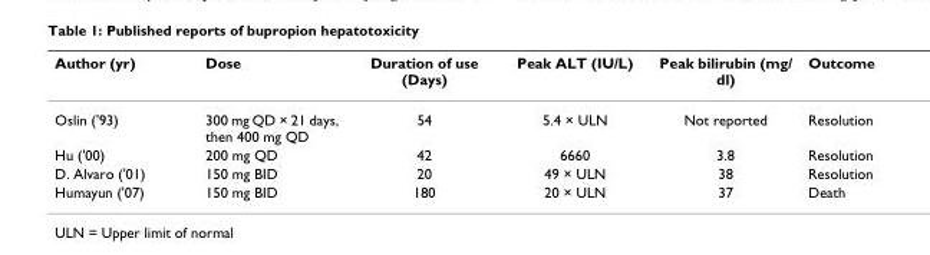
<table><thead><tr><td>Author (yr)</td><td>Dose</td><td>Duration of use (Days)</td><td>Peak ALT (IU/L)</td><td>Peak bilirubin (mg/ dl)</td><td>Outcome</td></tr></thead><tbody><tr><td>Oslin (&#x27;93)</td><td>300 mg QD × 21 days, then 400 mg QD</td><td>54</td><td>5.4 × ULN</td><td>Not reported</td><td>Resolution</td></tr><tr><td>Hu (&#x27;00)</td><td>200 mg QD</td><td>42</td><td>6660</td><td>3.8</td><td>Resolution</td></tr><tr><td>D. Alvaro (&#x27;01)</td><td>150 mg BID</td><td>20</td><td>49 × ULN</td><td>38</td><td>Resolution</td></tr><tr><td>Humayun (&#x27;07)</td><td>150 mg BID</td><td>180</td><td>20 × ULN</td><td>37</td><td>Death</td></tr></tbody></table>